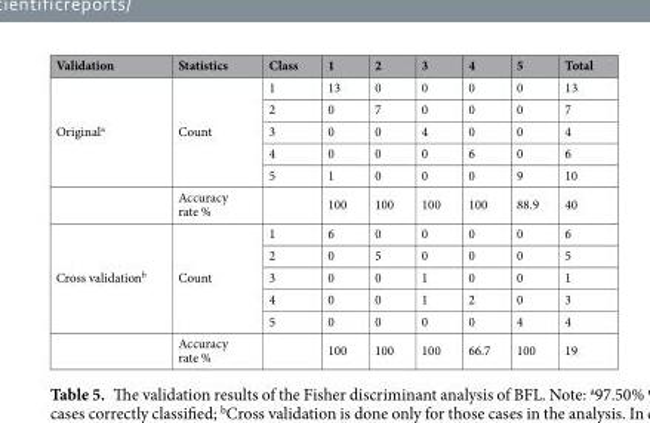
<table><thead><tr><td>Validation</td><td>Statistics</td><td>Class</td><td>1</td><td>2</td><td>3</td><td>4</td><td>5</td><td>Total</td></tr></thead><tbody><tr><td rowspan="6">Original<sup>a</sup></td><td rowspan="5">Count</td><td>1</td><td>13</td><td>0</td><td>0</td><td>0</td><td>0</td><td>13</td></tr><tr><td>2</td><td>0</td><td>7</td><td>0</td><td>0</td><td>0</td><td>7</td></tr><tr><td>3</td><td>0</td><td>0</td><td>4</td><td>0</td><td>0</td><td>4</td></tr><tr><td>4</td><td>0</td><td>0</td><td>0</td><td>6</td><td>0</td><td>6</td></tr><tr><td>5</td><td>1</td><td>0</td><td>0</td><td>0</td><td>9</td><td>10</td></tr><tr><td>Accuracy rate %</td><td></td><td>100</td><td>100</td><td>100</td><td>100</td><td>88.9</td><td>40</td></tr><tr><td rowspan="6">Cross validation<sup>b</sup></td><td rowspan="5">Count</td><td>1</td><td>6</td><td>0</td><td>0</td><td>0</td><td>0</td><td>6</td></tr><tr><td>2</td><td>0</td><td>5</td><td>0</td><td>0</td><td>0</td><td>5</td></tr><tr><td>3</td><td>0</td><td>0</td><td>1</td><td>0</td><td>0</td><td>1</td></tr><tr><td>4</td><td>0</td><td>0</td><td>1</td><td>2</td><td>0</td><td>3</td></tr><tr><td>5</td><td>0</td><td>0</td><td>0</td><td>0</td><td>4</td><td>4</td></tr><tr><td>Accuracy rate %</td><td></td><td>100</td><td>100</td><td>100</td><td>66.7</td><td>100</td><td>19</td></tr></tbody></table>